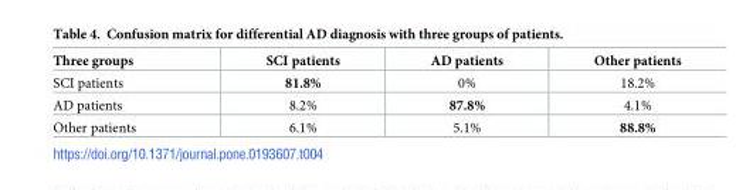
<table><thead><tr><td>Three groups</td><td>SCI patients</td><td>AD patients</td><td>Other patients</td></tr></thead><tbody><tr><td>SCI patients</td><td>81.8%</td><td>0%</td><td>18.2%</td></tr><tr><td>AD patients</td><td>8.2%</td><td>87.8%</td><td>4.1%</td></tr><tr><td>Other patients</td><td>6.1%</td><td>5.1%</td><td>88.8%</td></tr></tbody></table>